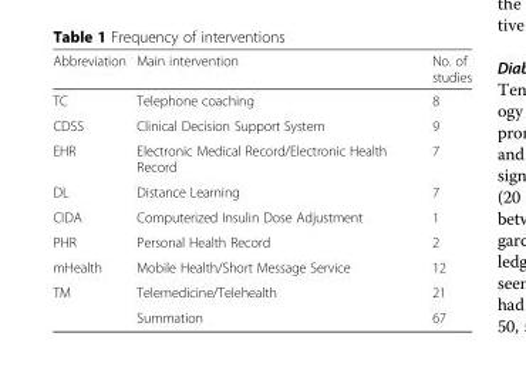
<table><thead><tr><td>Abbreviation</td><td>Main intervention</td><td>No. of studies</td></tr></thead><tbody><tr><td>TC</td><td>Telephone coaching</td><td>8</td></tr><tr><td>CDSS</td><td>Clinical Decision Support System</td><td>9</td></tr><tr><td>EHR</td><td>Electronic Medical Record/Electronic Health Record</td><td>7</td></tr><tr><td>DL</td><td>Distance Learning</td><td>7</td></tr><tr><td>CIDA</td><td>Computerized Insulin Dose Adjustment</td><td>1</td></tr><tr><td>PHR</td><td>Personal Health Record</td><td>2</td></tr><tr><td>mHealth</td><td>Mobile Health/Short Message Service</td><td>12</td></tr><tr><td rowspan="2">TM</td><td>Telemedicine/Telehealth</td><td>21</td></tr><tr><td>Summation</td><td>67</td></tr></tbody></table>